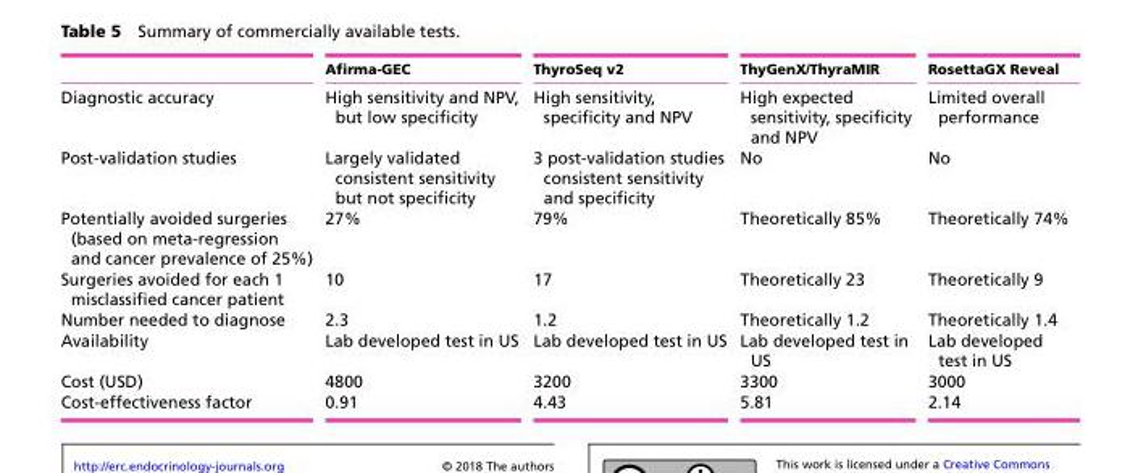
<table><thead><tr><td></td><td>Afirma-GEC</td><td>ThyroSeq v2</td><td>ThyGenX/ThyraMIR</td><td>RosettaGX Reveal</td></tr></thead><tbody><tr><td>Diagnostic accuracy</td><td>High sensitivity and NPV, but low specificity</td><td>High sensitivity, specificity and NPV</td><td>High expected sensitivity, specificity and NPV</td><td>Limited overall performance</td></tr><tr><td>Post-validation studies</td><td>Largely validated consistent sensitivity but not specificity</td><td>3 post-validation studies consistent sensitivity and specificity</td><td>No</td><td>No</td></tr><tr><td>Potentially avoided surgeries (based on meta-regression and cancer prevalence of 25%)</td><td>27%</td><td>79%</td><td>Theoretically 85%</td><td>Theoretically 74%</td></tr><tr><td>Surgeries avoided for each 1 misclassified cancer patient</td><td>10</td><td>17</td><td>Theoretically 23</td><td>Theoretically 9</td></tr><tr><td>Number needed to diagnose</td><td>2.3</td><td>1.2</td><td>Theoretically 1.2</td><td>Theoretically 1.4</td></tr><tr><td>Availability</td><td>Lab developed test in US</td><td>Lab developed test in US</td><td>Lab developed test in US</td><td>Lab developed test in US</td></tr><tr><td>Cost (USD)</td><td>4800</td><td>3200</td><td>3300</td><td>3000</td></tr><tr><td>Cost-effectiveness factor</td><td>0.91</td><td>4.43</td><td>5.81</td><td>2.14</td></tr></tbody></table>